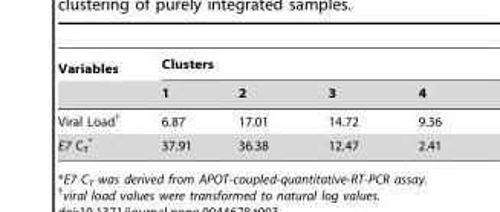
<table><thead><tr><td rowspan="2">Variables</td><td colspan="4">Clusters</td></tr><tr><td>1</td><td>2</td><td>3</td><td>4</td></tr></thead><tbody><tr><td>Viral Load†</td><td>6.87</td><td>17.01</td><td>14.72</td><td>9.36</td></tr><tr><td>E7 C<sub>T</sub> *</td><td>37.91</td><td>36.38</td><td>12.47</td><td>2.41</td></tr></tbody></table>